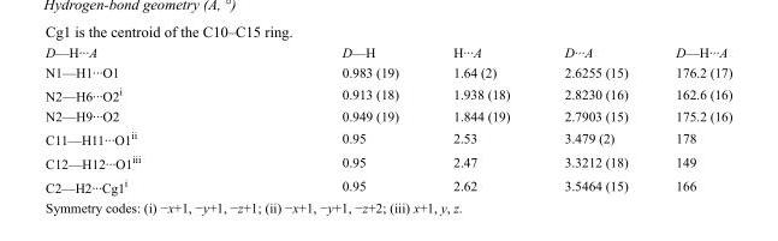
<table><tbody><tr><td>D—H···A</td><td>D—H</td><td>H···A</td><td>D···A</td><td>D—H···A</td></tr><tr><td>N1—H1···O1</td><td>0.983 (19)</td><td>1.64 (2)</td><td>2.6255 (15)</td><td>176.2 (17)</td></tr><tr><td>N2—H6···O2<sup>i</sup></td><td>0.913 (18)</td><td>1.938 (18)</td><td>2.8230 (16)</td><td>162.6 (16)</td></tr><tr><td>N2—H9···O2</td><td>0.949 (19)</td><td>1.844 (19)</td><td>2.7903 (15)</td><td>175.2 (16)</td></tr><tr><td>C11—H11···O1<sup>ii</sup></td><td>0.95</td><td>2.53</td><td>3.479 (2)</td><td>178</td></tr><tr><td>C12—H12···O1<sup>iii</sup></td><td>0.95</td><td>2.47</td><td>3.3212 (18)</td><td>149</td></tr><tr><td>C2—H2···Cg1<sup>i</sup></td><td>0.95</td><td>2.62</td><td>3.5464 (15)</td><td>166</td></tr></tbody></table>